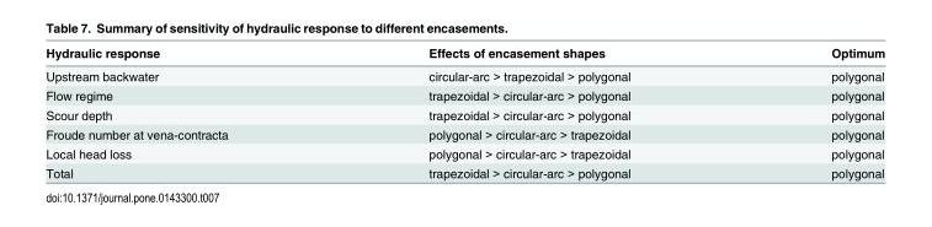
<table><thead><tr><td>Hydraulic response</td><td>Effects of encasement shapes</td><td>Optimum</td></tr></thead><tbody><tr><td>Upstream backwater</td><td>circular-arc &gt; trapezoidal &gt; polygonal</td><td>polygonal</td></tr><tr><td>Flow regime</td><td>trapezoidal &gt; circular-arc &gt; polygonal</td><td>polygonal</td></tr><tr><td>Scour depth</td><td>trapezoidal &gt; circular-arc &gt; polygonal</td><td>polygonal</td></tr><tr><td>Froude number at vena-contracta</td><td>polygonal &gt; circular-arc &gt; trapezoidal</td><td>polygonal</td></tr><tr><td>Local head loss</td><td>polygonal &gt; circular-arc &gt; trapezoidal</td><td>polygonal</td></tr><tr><td>Total</td><td>trapezoidal &gt; circular-arc &gt; polygonal</td><td>polygonal</td></tr></tbody></table>